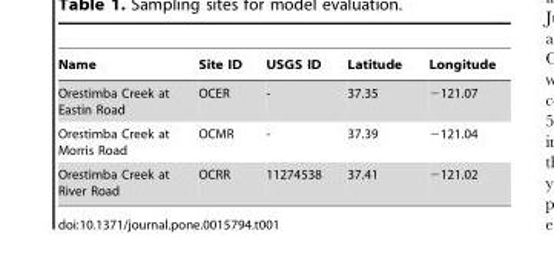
<table><thead><tr><td>Name</td><td>Site ID</td><td>USGS ID</td><td>Latitude</td><td>Longitude</td></tr></thead><tbody><tr><td>Orestimba Creek at Eastin Road</td><td>OCER</td><td>-</td><td>37.35</td><td>−121.07</td></tr><tr><td>Orestimba Creek at Morris Road</td><td>OCMR</td><td>-</td><td>37.39</td><td>−121.04</td></tr><tr><td>Orestimba Creek at River Road</td><td>OCRR</td><td>11274538</td><td>37.41</td><td>−121.02</td></tr></tbody></table>